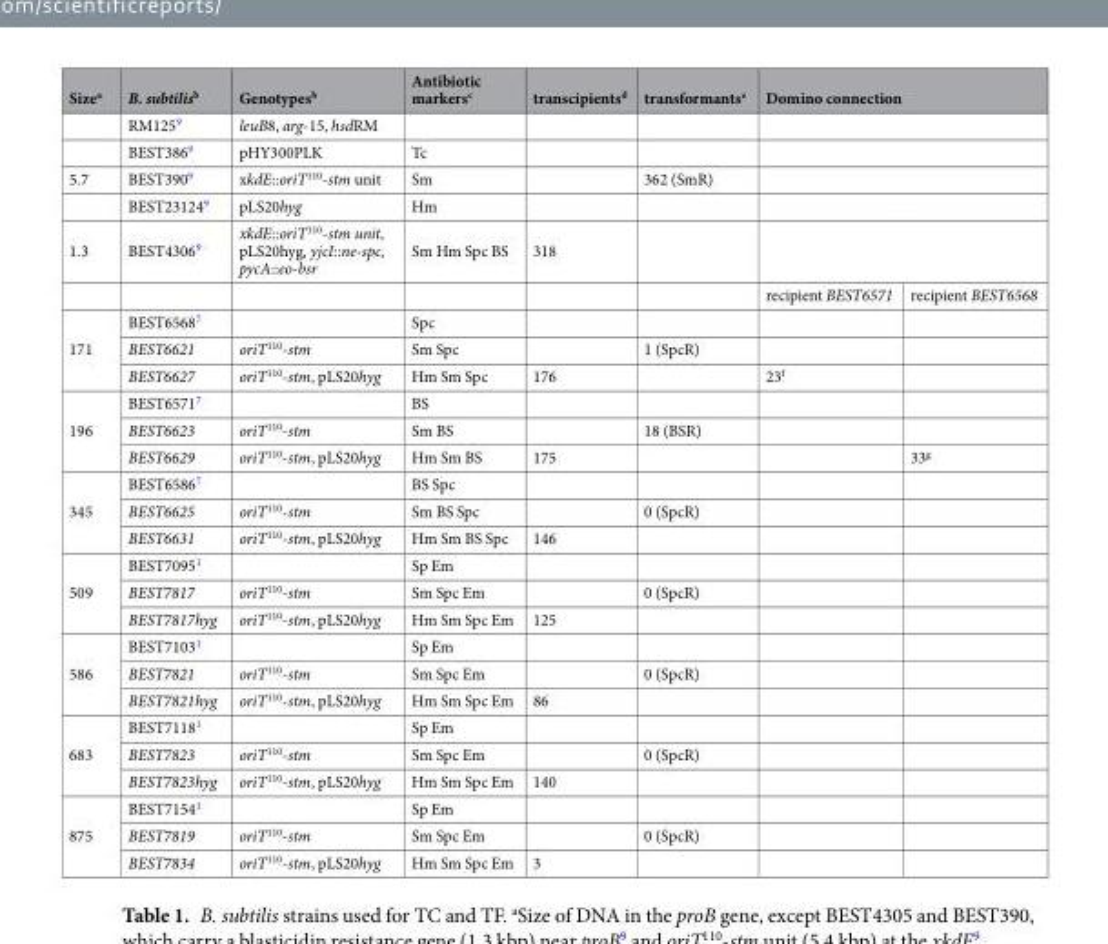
<table><thead><tr><td>Size<sup>a</sup></td><td>B. subtilis<sup>b</sup></td><td>Genotypes<sup>b</sup></td><td>Antibiotic markers<sup>c</sup></td><td>transcipients<sup>d</sup></td><td>transformants<sup>e</sup></td><td colspan="2">Domino connection</td></tr></thead><tbody><tr><td></td><td>RM125<sup>9</sup></td><td>leuB8, arg-15, hsdRM</td><td></td><td></td><td></td><td colspan="2"></td></tr><tr><td></td><td>BEST386<sup>9</sup></td><td>pHY300PLK</td><td>Tc</td><td></td><td></td><td colspan="2"></td></tr><tr><td rowspan="2">5.7</td><td>BEST390<sup>9</sup></td><td>xkdE::oriT<sup>110</sup>-stm unit</td><td>Sm</td><td></td><td>362 (SmR)</td><td colspan="2"></td></tr><tr><td>BEST23124<sup>9</sup></td><td>pLS20hyg</td><td>Hm</td><td></td><td></td><td colspan="2"></td></tr><tr><td rowspan="2">1.3</td><td>BEST4306<sup>9</sup></td><td>xkdE::oriT<sup>110</sup>-stm unit, pLS20hyg, yjcI::ne-spc, pycA::eo-bsr</td><td>Sm Hm Spc BS</td><td>318</td><td></td><td colspan="2"></td></tr><tr><td></td><td></td><td></td><td></td><td></td><td>recipient BEST6571</td><td>recipient BEST6568</td></tr><tr><td rowspan="3">171</td><td>BEST6568<sup>7</sup></td><td></td><td>Spc</td><td></td><td></td><td></td><td></td></tr><tr><td>BEST6621</td><td>oriT<sup>110</sup>-stm</td><td>Sm Spc</td><td></td><td>1 (SpcR)</td><td></td><td></td></tr><tr><td>BEST6627</td><td>oriT<sup>110</sup>-stm, pLS20hyg</td><td>Hm Sm Spc</td><td>176</td><td></td><td>23<sup>f</sup></td><td></td></tr><tr><td rowspan="3">196</td><td>BEST6571<sup>7</sup></td><td></td><td>BS</td><td></td><td></td><td></td><td></td></tr><tr><td>BEST6623</td><td>oriT<sup>110</sup>-stm</td><td>Sm BS</td><td></td><td>18 (BSR)</td><td></td><td></td></tr><tr><td>BEST6629</td><td>oriT<sup>110</sup>-stm, pLS20hyg</td><td>Hm Sm BS</td><td>175</td><td></td><td></td><td>33<sup>g</sup></td></tr><tr><td rowspan="3">345</td><td>BEST6586<sup>7</sup></td><td></td><td>BS Spc</td><td></td><td></td><td></td><td></td></tr><tr><td>BEST6625</td><td>oriT<sup>110</sup>-stm</td><td>Sm BS Spc</td><td></td><td>0 (SpcR)</td><td></td><td></td></tr><tr><td>BEST6631</td><td>oriT<sup>110</sup>-stm, pLS20hyg</td><td>Hm Sm BS Spc</td><td>146</td><td></td><td></td><td></td></tr><tr><td rowspan="3">509</td><td>BEST7095<sup>1</sup></td><td></td><td>Sp Em</td><td></td><td></td><td></td><td></td></tr><tr><td>BEST7817</td><td>oriT<sup>110</sup>-stm</td><td>Sm Spc Em</td><td></td><td>0 (SpcR)</td><td></td><td></td></tr><tr><td>BEST7817hyg</td><td>oriT<sup>110</sup>-stm, pLS20hyg</td><td>Hm Sm Spc Em</td><td>125</td><td></td><td></td><td></td></tr><tr><td rowspan="3">586</td><td>BEST7103<sup>1</sup></td><td></td><td>Sp Em</td><td></td><td></td><td></td><td></td></tr><tr><td>BEST7821</td><td>oriT<sup>110</sup>-stm</td><td>Sm Spc Em</td><td></td><td>0 (SpcR)</td><td></td><td></td></tr><tr><td>BEST7821hyg</td><td>oriT<sup>110</sup>-stm, pLS20hyg</td><td>Hm Sm Spc Em</td><td>86</td><td></td><td></td><td></td></tr><tr><td rowspan="3">683</td><td>BEST7118<sup>1</sup></td><td></td><td>Sp Em</td><td></td><td></td><td></td><td></td></tr><tr><td>BEST7823</td><td>oriT<sup>110</sup>-stm</td><td>Sm Spc Em</td><td></td><td>0 (SpcR)</td><td></td><td></td></tr><tr><td>BEST7823hyg</td><td>oriT<sup>110</sup>-stm, pLS20hyg</td><td>Hm Sm Spc Em</td><td>140</td><td></td><td></td><td></td></tr><tr><td rowspan="3">875</td><td>BEST7154<sup>1</sup></td><td></td><td>Sp Em</td><td></td><td></td><td></td><td></td></tr><tr><td>BEST7819</td><td>oriT<sup>110</sup>-stm</td><td>Sm Spc Em</td><td></td><td>0 (SpcR)</td><td></td><td></td></tr><tr><td>BEST7834</td><td>oriT<sup>110</sup>-stm, pLS20hyg</td><td>Hm Sm Spc Em</td><td>3</td><td></td><td></td><td></td></tr></tbody></table>